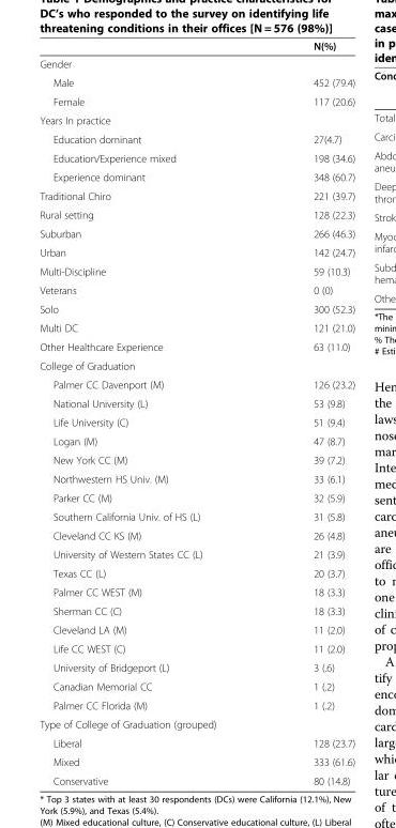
<table><thead><tr><td></td><td>N(%)</td></tr></thead><tbody><tr><td colspan="2">Gender</td></tr><tr><td>Male</td><td>452 (79.4)</td></tr><tr><td>Female</td><td>117 (20.6)</td></tr><tr><td colspan="2">Years In practice</td></tr><tr><td>Education dominant</td><td>27(4.7)</td></tr><tr><td>Education/Experience mixed</td><td>198 (34.6)</td></tr><tr><td>Experience dominant</td><td>348 (60.7)</td></tr><tr><td>Traditional Chiro</td><td>221 (39.7)</td></tr><tr><td>Rural setting</td><td>128 (22.3)</td></tr><tr><td>Suburban</td><td>266 (46.3)</td></tr><tr><td>Urban</td><td>142 (24.7)</td></tr><tr><td>Multi-Discipline</td><td>59 (10.3)</td></tr><tr><td>Veterans</td><td>0 (0)</td></tr><tr><td>Solo</td><td>300 (52.3)</td></tr><tr><td>Multi DC</td><td>121 (21.0)</td></tr><tr><td>Other Healthcare Experience</td><td>63 (11.0)</td></tr><tr><td colspan="2">College of Graduation</td></tr><tr><td>Palmer CC Davenport (M)</td><td>126 (23.2)</td></tr><tr><td>National University (L)</td><td>53 (9.8)</td></tr><tr><td>Life University (C)</td><td>51 (9.4)</td></tr><tr><td>Logan (M)</td><td>47 (8.7)</td></tr><tr><td>New York CC (M)</td><td>39 (7.2)</td></tr><tr><td>Northwestern HS Univ. (M)</td><td>33 (6.1)</td></tr><tr><td>Parker CC (M)</td><td>32 (5.9)</td></tr><tr><td>Southern California Univ. of HS (L)</td><td>31 (5.8)</td></tr><tr><td>Cleveland CC KS (M)</td><td>26 (4.8)</td></tr><tr><td>University of Western States CC (L)</td><td>21 (3.9)</td></tr><tr><td>Texas CC (L)</td><td>20 (3.7)</td></tr><tr><td>Palmer CC WEST (M)</td><td>18 (3.3)</td></tr><tr><td>Sherman CC (C)</td><td>18 (3.3)</td></tr><tr><td>Cleveland LA (M)</td><td>11 (2.0)</td></tr><tr><td>Life CC WEST (C)</td><td>11 (2.0)</td></tr><tr><td>University of Bridgeport (L)</td><td>3 (.6)</td></tr><tr><td>Canadian Memorial CC</td><td>1 (.2)</td></tr><tr><td>Palmer CC Florida (M)</td><td>1 (.2)</td></tr><tr><td colspan="2">Type of College of Graduation (grouped)</td></tr><tr><td>Liberal</td><td>128 (23.7)</td></tr><tr><td>Mixed</td><td>333 (61.6)</td></tr><tr><td>Conservative</td><td>80 (14.8)</td></tr></tbody></table>